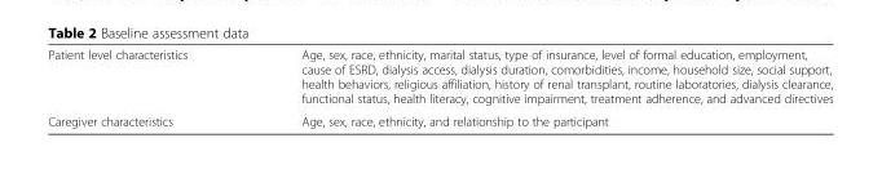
<table><tbody><tr><td>Patient level characteristics</td><td>Age, sex, race, ethnicity, marital status, type of insurance, level of formal education, employment, cause of ESRD, dialysis access, dialysis duration, comorbidities, income, household size, social support, health behaviors, religious affiliation, history of renal transplant, routine laboratories, dialysis clearance, functional status, health literacy, cognitive impairment, treatment adherence, and advanced directives</td></tr><tr><td>Caregiver characteristics</td><td>Age, sex, race, ethnicity, and relationship to the participant</td></tr></tbody></table>